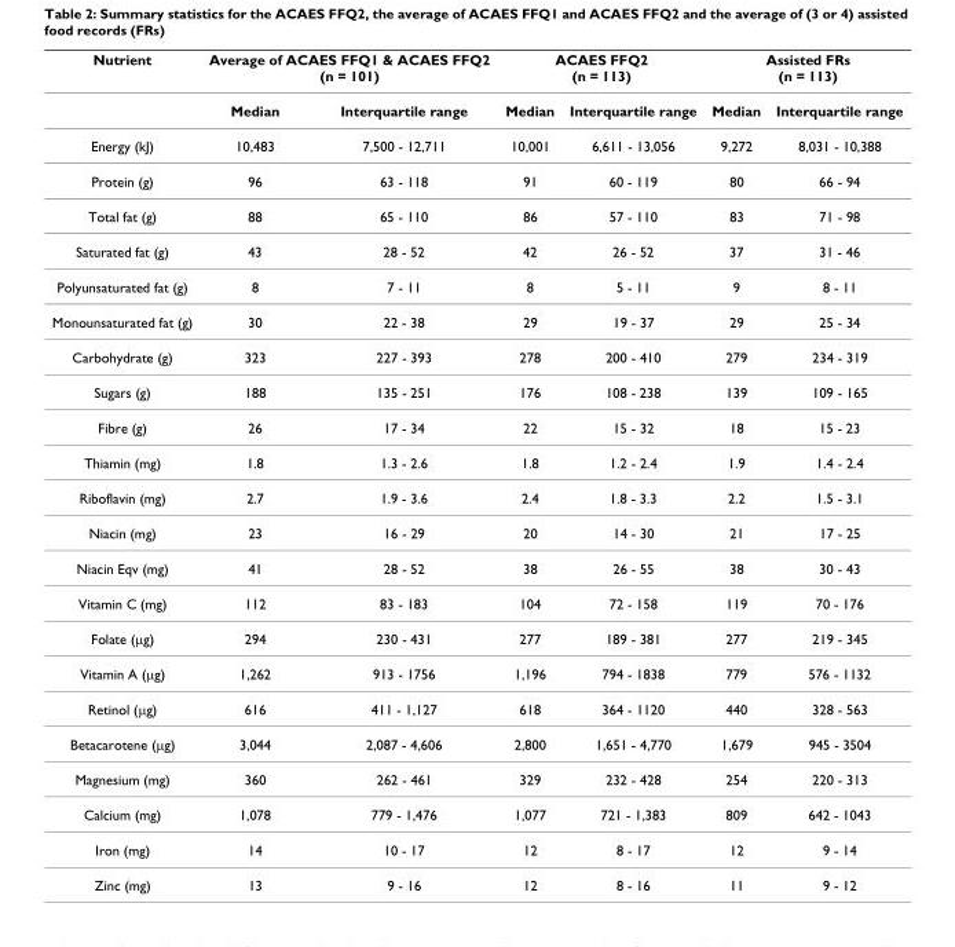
<table><thead><tr><td rowspan="2">Nutrient</td><td colspan="2">Average of ACAES FFQ1 &amp; ACAES FFQ2 (n = 101)</td><td colspan="2">ACAES FFQ2 (n = 113)</td><td colspan="2">Assisted FRs (n = 113)</td></tr><tr><td>Median</td><td>Interquartile range</td><td>Median</td><td>Interquartile range</td><td>Median</td><td>Interquartile range</td></tr></thead><tbody><tr><td>Energy (kJ)</td><td>10,483</td><td>7,500 - 12,711</td><td>10,001</td><td>6,611 - 13,056</td><td>9,272</td><td>8,031 - 10,388</td></tr><tr><td>Protein (g)</td><td>96</td><td>63 - 118</td><td>91</td><td>60 - 119</td><td>80</td><td>66 - 94</td></tr><tr><td>Total fat (g)</td><td>88</td><td>65 - 110</td><td>86</td><td>57 - 110</td><td>83</td><td>71 - 98</td></tr><tr><td>Saturated fat (g)</td><td>43</td><td>28 - 52</td><td>42</td><td>26 - 52</td><td>37</td><td>31 - 46</td></tr><tr><td>Polyunsaturated fat (g)</td><td>8</td><td>7 - 11</td><td>8</td><td>5 - 11</td><td>9</td><td>8 - 11</td></tr><tr><td>Monounsaturated fat (g)</td><td>30</td><td>22 - 38</td><td>29</td><td>19 - 37</td><td>29</td><td>25 - 34</td></tr><tr><td>Carbohydrate (g)</td><td>323</td><td>227 - 393</td><td>278</td><td>200 - 410</td><td>279</td><td>234 - 319</td></tr><tr><td>Sugars (g)</td><td>188</td><td>135 - 251</td><td>176</td><td>108 - 238</td><td>139</td><td>109 - 165</td></tr><tr><td>Fibre (g)</td><td>26</td><td>17 - 34</td><td>22</td><td>15 - 32</td><td>18</td><td>15 - 23</td></tr><tr><td>Thiamin (mg)</td><td>1.8</td><td>1.3 - 2.6</td><td>1.8</td><td>1.2 - 2.4</td><td>1.9</td><td>1.4 - 2.4</td></tr><tr><td>Riboflavin (mg)</td><td>2.7</td><td>1.9 - 3.6</td><td>2.4</td><td>1.8 - 3.3</td><td>2.2</td><td>1.5 - 3.1</td></tr><tr><td>Niacin (mg)</td><td>23</td><td>16 - 29</td><td>20</td><td>14 - 30</td><td>21</td><td>17 - 25</td></tr><tr><td>Niacin Eqv (mg)</td><td>41</td><td>28 - 52</td><td>38</td><td>26 - 55</td><td>38</td><td>30 - 43</td></tr><tr><td>Vitamin C (mg)</td><td>112</td><td>83 - 183</td><td>104</td><td>72 - 158</td><td>119</td><td>70 - 176</td></tr><tr><td>Folate (μg)</td><td>294</td><td>230 - 431</td><td>277</td><td>189 - 381</td><td>277</td><td>219 - 345</td></tr><tr><td>Vitamin A (μg)</td><td>1,262</td><td>913 - 1756</td><td>1,196</td><td>794 - 1838</td><td>779</td><td>576 - 1132</td></tr><tr><td>Retinol (μg)</td><td>616</td><td>411 - 1,127</td><td>618</td><td>364 - 1120</td><td>440</td><td>328 - 563</td></tr><tr><td>Betacarotene (μg)</td><td>3,044</td><td>2,087 - 4,606</td><td>2,800</td><td>1,651 - 4,770</td><td>1,679</td><td>945 - 3504</td></tr><tr><td>Magnesium (mg)</td><td>360</td><td>262 - 461</td><td>329</td><td>232 - 428</td><td>254</td><td>220 - 313</td></tr><tr><td>Calcium (mg)</td><td>1,078</td><td>779 - 1,476</td><td>1,077</td><td>721 - 1,383</td><td>809</td><td>642 - 1043</td></tr><tr><td>Iron (mg)</td><td>14</td><td>10 - 17</td><td>12</td><td>8 - 17</td><td>12</td><td>9 - 14</td></tr><tr><td>Zinc (mg)</td><td>13</td><td>9 - 16</td><td>12</td><td>8 - 16</td><td>11</td><td>9 - 12</td></tr></tbody></table>